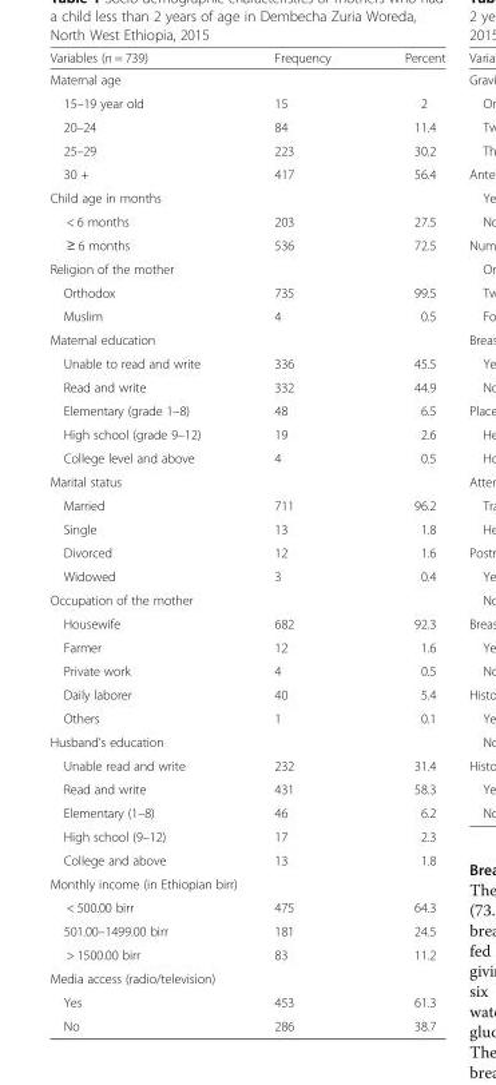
<table><thead><tr><td>Variables (n = 739)</td><td>Frequency</td><td>Percent</td></tr></thead><tbody><tr><td colspan="3">Maternal age</td></tr><tr><td>15–19 year old</td><td>15</td><td>2</td></tr><tr><td>20–24</td><td>84</td><td>11.4</td></tr><tr><td>25–29</td><td>223</td><td>30.2</td></tr><tr><td>30 +</td><td>417</td><td>56.4</td></tr><tr><td colspan="3">Child age in months</td></tr><tr><td>&lt; 6 months</td><td>203</td><td>27.5</td></tr><tr><td>≥ 6 months</td><td>536</td><td>72.5</td></tr><tr><td colspan="3">Religion of the mother</td></tr><tr><td>Orthodox</td><td>735</td><td>99.5</td></tr><tr><td>Muslim</td><td>4</td><td>0.5</td></tr><tr><td colspan="3">Maternal education</td></tr><tr><td>Unable to read and write</td><td>336</td><td>45.5</td></tr><tr><td>Read and write</td><td>332</td><td>44.9</td></tr><tr><td>Elementary (grade 1–8)</td><td>48</td><td>6.5</td></tr><tr><td>High school (grade 9–12)</td><td>19</td><td>2.6</td></tr><tr><td>College level and above</td><td>4</td><td>0.5</td></tr><tr><td colspan="3">Marital status</td></tr><tr><td>Married</td><td>711</td><td>96.2</td></tr><tr><td>Single</td><td>13</td><td>1.8</td></tr><tr><td>Divorced</td><td>12</td><td>1.6</td></tr><tr><td>Widowed</td><td>3</td><td>0.4</td></tr><tr><td colspan="3">Occupation of the mother</td></tr><tr><td>Housewife</td><td>682</td><td>92.3</td></tr><tr><td>Farmer</td><td>12</td><td>1.6</td></tr><tr><td>Private work</td><td>4</td><td>0.5</td></tr><tr><td>Daily laborer</td><td>40</td><td>5.4</td></tr><tr><td>Others</td><td>1</td><td>0.1</td></tr><tr><td colspan="3">Husband’s education</td></tr><tr><td>Unable read and write</td><td>232</td><td>31.4</td></tr><tr><td>Read and write</td><td>431</td><td>58.3</td></tr><tr><td>Elementary (1–8)</td><td>46</td><td>6.2</td></tr><tr><td>High school (9–12)</td><td>17</td><td>2.3</td></tr><tr><td>College and above</td><td>13</td><td>1.8</td></tr><tr><td colspan="3">Monthly income (in Ethiopian birr)</td></tr><tr><td>&lt; 500.00 birr</td><td>475</td><td>64.3</td></tr><tr><td>501.00–1499.00 birr</td><td>181</td><td>24.5</td></tr><tr><td>&gt; 1500.00 birr</td><td>83</td><td>11.2</td></tr><tr><td colspan="3">Media access (radio/television)</td></tr><tr><td>Yes</td><td>453</td><td>61.3</td></tr><tr><td>No</td><td>286</td><td>38.7</td></tr></tbody></table>